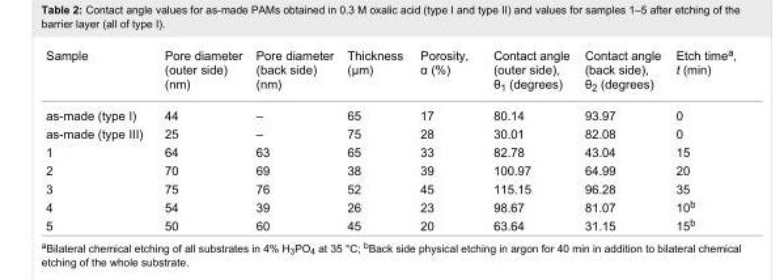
<table><tbody><tr><td>Sample</td><td>Pore diameter (outer side) (nm)</td><td>Pore diameter (back side) (nm)</td><td>Thickness (μm)</td><td>Porosity, α (%)</td><td>Contact angle (outer side), θ<sub>1</sub> (degrees)</td><td>Contact angle (back side), θ<sub>2</sub> (degrees)</td><td>Etch time<sup>a</sup>, t (min)</td></tr><tr><td>as-made (type I)</td><td>44</td><td>–</td><td>65</td><td>17</td><td>80.14</td><td>93.97</td><td>0</td></tr><tr><td>as-made (type III)</td><td>25</td><td>–</td><td>75</td><td>28</td><td>30.01</td><td>82.08</td><td>0</td></tr><tr><td>1</td><td>64</td><td>63</td><td>65</td><td>33</td><td>82.78</td><td>43.04</td><td>15</td></tr><tr><td>2</td><td>70</td><td>69</td><td>38</td><td>39</td><td>100.97</td><td>64.99</td><td>20</td></tr><tr><td>3</td><td>75</td><td>76</td><td>52</td><td>45</td><td>115.15</td><td>96.28</td><td>35</td></tr><tr><td>4</td><td>54</td><td>39</td><td>26</td><td>23</td><td>98.67</td><td>81.07</td><td>10<sup>b</sup></td></tr><tr><td>5</td><td>50</td><td>60</td><td>45</td><td>20</td><td>63.64</td><td>31.15</td><td>15<sup>b</sup></td></tr></tbody></table>